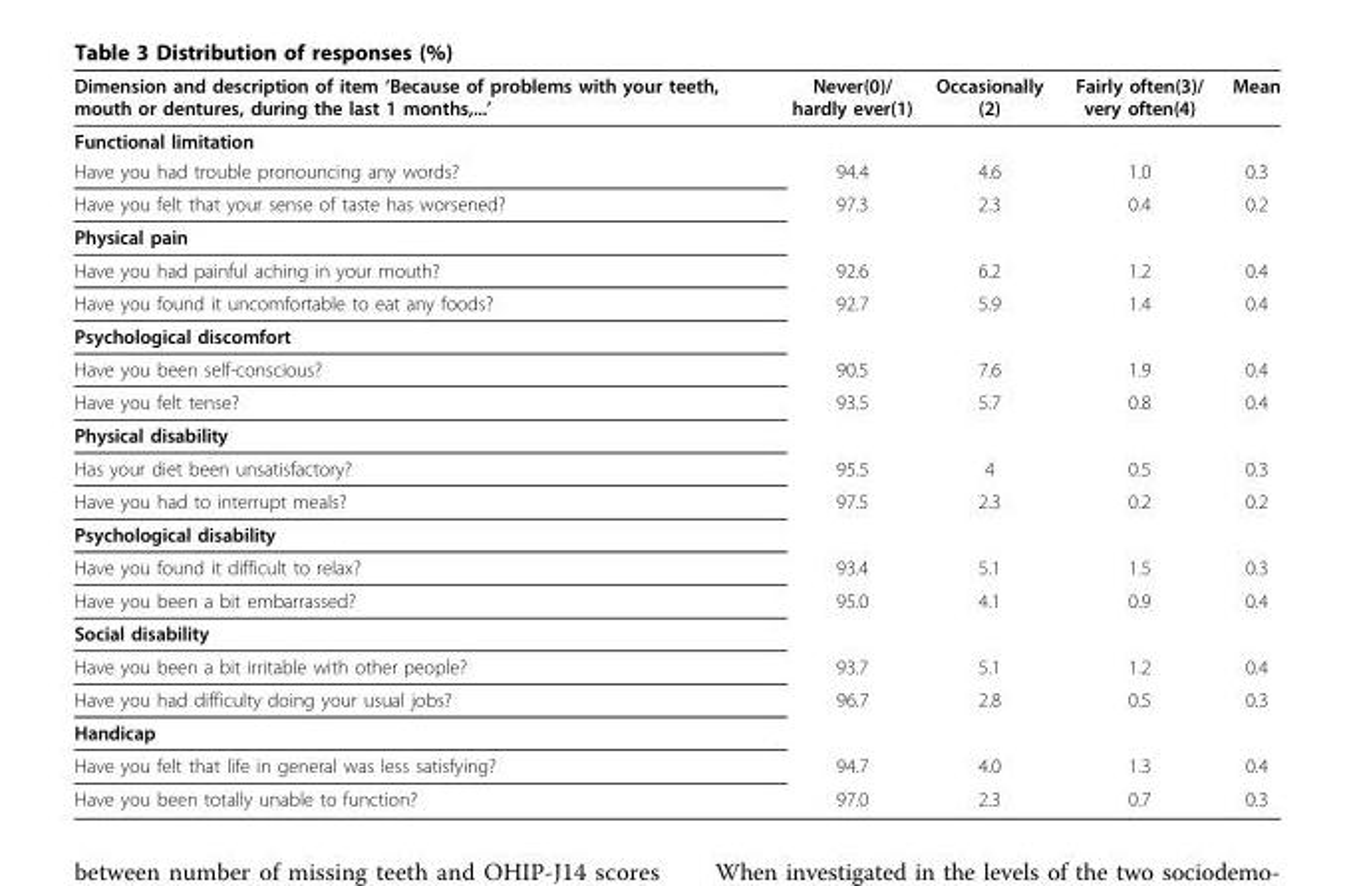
<table><thead><tr><td>Dimension and description of item ‘Because of problems with your teeth, mouth or dentures, during the last 1 months,...’</td><td>Never(0)/ hardly ever(1)</td><td>Occasionally (2)</td><td>Fairly often(3)/ very often(4)</td><td>Mean</td></tr></thead><tbody><tr><td colspan="5">Functional limitation</td></tr><tr><td>Have you had trouble pronouncing any words?</td><td>94.4</td><td>4.6</td><td>1.0</td><td>0.3</td></tr><tr><td>Have you felt that your sense of taste has worsened?</td><td>97.3</td><td>2.3</td><td>0.4</td><td>0.2</td></tr><tr><td colspan="5">Physical pain</td></tr><tr><td>Have you had painful aching in your mouth?</td><td>92.6</td><td>6.2</td><td>1.2</td><td>0.4</td></tr><tr><td>Have you found it uncomfortable to eat any foods?</td><td>92.7</td><td>5.9</td><td>1.4</td><td>0.4</td></tr><tr><td colspan="5">Psychological discomfort</td></tr><tr><td>Have you been self-conscious?</td><td>90.5</td><td>7.6</td><td>1.9</td><td>0.4</td></tr><tr><td>Have you felt tense?</td><td>93.5</td><td>5.7</td><td>0.8</td><td>0.4</td></tr><tr><td colspan="5">Physical disability</td></tr><tr><td>Has your diet been unsatisfactory?</td><td>95.5</td><td>4</td><td>0.5</td><td>0.3</td></tr><tr><td>Have you had to interrupt meals?</td><td>97.5</td><td>2.3</td><td>0.2</td><td>0.2</td></tr><tr><td colspan="5">Psychological disability</td></tr><tr><td>Have you found it difficult to relax?</td><td>93.4</td><td>5.1</td><td>1.5</td><td>0.3</td></tr><tr><td>Have you been a bit embarrassed?</td><td>95.0</td><td>4.1</td><td>0.9</td><td>0.4</td></tr><tr><td colspan="5">Social disability</td></tr><tr><td>Have you been a bit irritable with other people?</td><td>93.7</td><td>5.1</td><td>1.2</td><td>0.4</td></tr><tr><td>Have you had difficulty doing your usual jobs?</td><td>96.7</td><td>2.8</td><td>0.5</td><td>0.3</td></tr><tr><td colspan="5">Handicap</td></tr><tr><td>Have you felt that life in general was less satisfying?</td><td>94.7</td><td>4.0</td><td>1.3</td><td>0.4</td></tr><tr><td>Have you been totally unable to function?</td><td>97.0</td><td>2.3</td><td>0.7</td><td>0.3</td></tr></tbody></table>